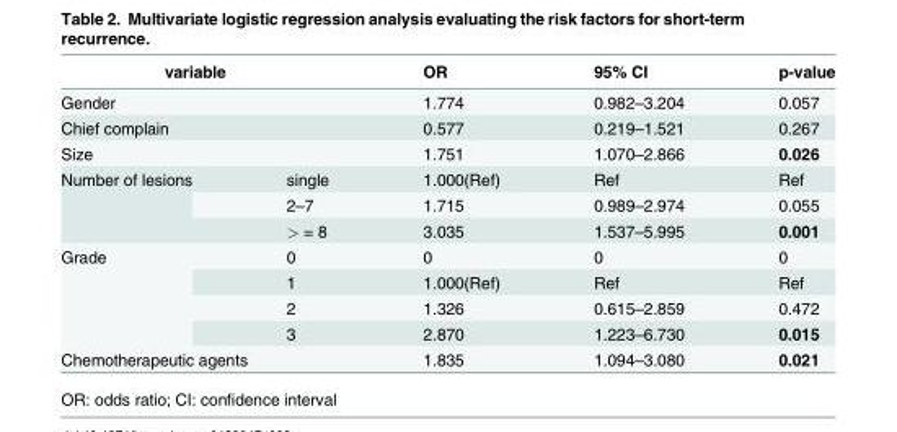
<table><thead><tr><td colspan="2">variable</td><td>OR</td><td>95% CI</td><td>p-value</td></tr></thead><tbody><tr><td colspan="2">Gender</td><td>1.774</td><td>0.982–3.204</td><td>0.057</td></tr><tr><td colspan="2">Chief complain</td><td>0.577</td><td>0.219–1.521</td><td>0.267</td></tr><tr><td colspan="2">Size</td><td>1.751</td><td>1.070–2.866</td><td>0.026</td></tr><tr><td rowspan="3">Number of lesions</td><td>single</td><td>1.000(Ref)</td><td>Ref</td><td>Ref</td></tr><tr><td>2–7</td><td>1.715</td><td>0.989–2.974</td><td>0.055</td></tr><tr><td>&gt; = 8</td><td>3.035</td><td>1.537–5.995</td><td>0.001</td></tr><tr><td rowspan="4">Grade</td><td>0</td><td>0</td><td>0</td><td>0</td></tr><tr><td>1</td><td>1.000(Ref)</td><td>Ref</td><td>Ref</td></tr><tr><td>2</td><td>1.326</td><td>0.615–2.859</td><td>0.472</td></tr><tr><td>3</td><td>2.870</td><td>1.223–6.730</td><td>0.015</td></tr><tr><td colspan="2">Chemotherapeutic agents</td><td>1.835</td><td>1.094–3.080</td><td>0.021</td></tr></tbody></table>